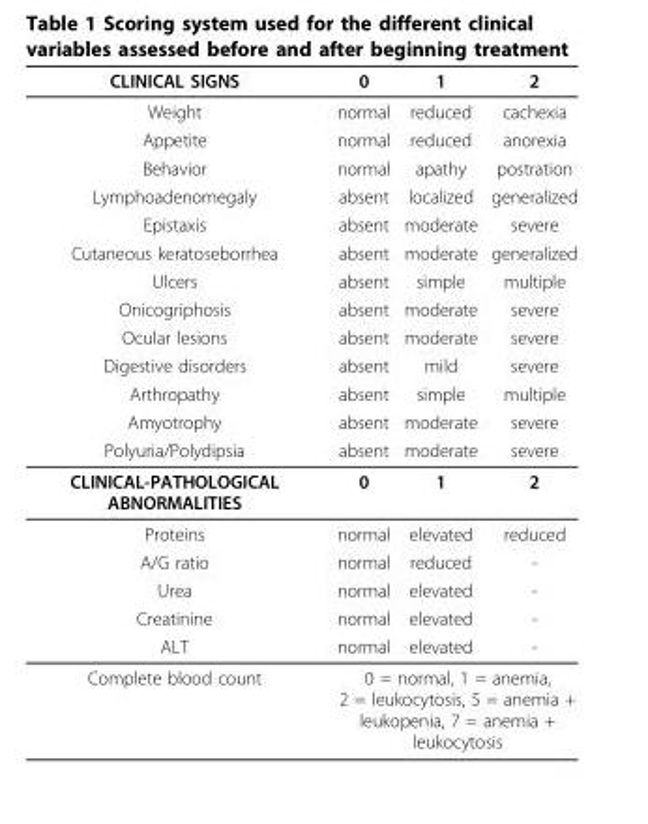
<table><thead><tr><td>CLINICAL SIGNS</td><td>0</td><td>1</td><td>2</td></tr></thead><tbody><tr><td>Weight</td><td>normal</td><td>reduced</td><td>cachexia</td></tr><tr><td>Appetite</td><td>normal</td><td>reduced</td><td>anorexia</td></tr><tr><td>Behavior</td><td>normal</td><td>apathy</td><td>postration</td></tr><tr><td>Lymphoadenomegaly</td><td>absent</td><td>localized</td><td>generalized</td></tr><tr><td>Epistaxis</td><td>absent</td><td>moderate</td><td>severe</td></tr><tr><td>Cutaneous keratoseborrhea</td><td>absent</td><td>moderate</td><td>generalized</td></tr><tr><td>Ulcers</td><td>absent</td><td>simple</td><td>multiple</td></tr><tr><td>Onicogriphosis</td><td>absent</td><td>moderate</td><td>severe</td></tr><tr><td>Ocular lesions</td><td>absent</td><td>moderate</td><td>severe</td></tr><tr><td>Digestive disorders</td><td>absent</td><td>mild</td><td>severe</td></tr><tr><td>Arthropathy</td><td>absent</td><td>simple</td><td>multiple</td></tr><tr><td>Amyotrophy</td><td>absent</td><td>moderate</td><td>severe</td></tr><tr><td>Polyuria/Polydipsia</td><td>absent</td><td>moderate</td><td>severe</td></tr><tr><td>CLINICAL-PATHOLOGICAL ABNORMALITIES</td><td>0</td><td>1</td><td>2</td></tr><tr><td>Proteins</td><td>normal</td><td>elevated</td><td>reduced</td></tr><tr><td>A/G ratio</td><td>normal</td><td>reduced</td><td>-</td></tr><tr><td>Urea</td><td>normal</td><td>elevated</td><td>-</td></tr><tr><td>Creatinine</td><td>normal</td><td>elevated</td><td>-</td></tr><tr><td>ALT</td><td>normal</td><td>elevated</td><td>-</td></tr><tr><td>Complete blood count</td><td colspan="3">0 = normal, 1 = anemia, 2 = leukocytosis, 5 = anemia + leukopenia, 7 = anemia + leukocytosis</td></tr></tbody></table>